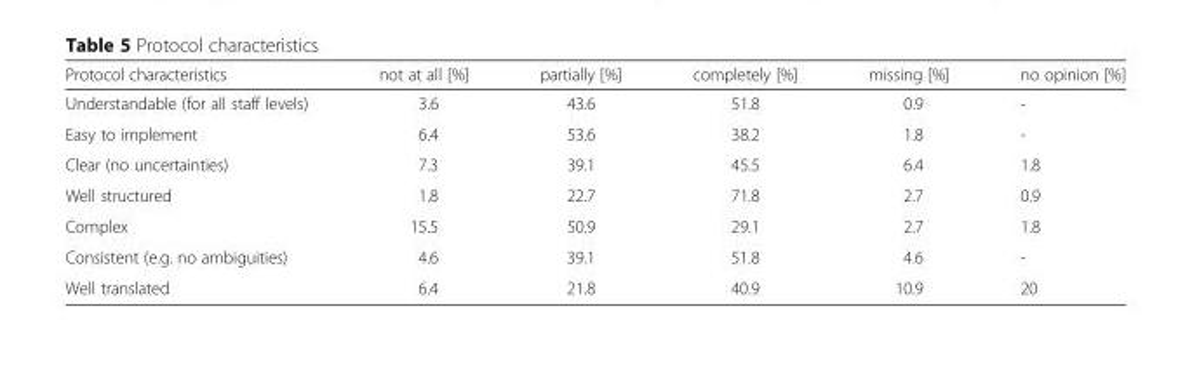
<table><thead><tr><td>Protocol characteristics</td><td>not at all [%]</td><td>partially [%]</td><td>completely [%]</td><td>missing [%]</td><td>no opinion [%]</td></tr></thead><tbody><tr><td>Understandable (for all staff levels)</td><td>3.6</td><td>43.6</td><td>51.8</td><td>0.9</td><td>-</td></tr><tr><td>Easy to implement</td><td>6.4</td><td>53.6</td><td>38.2</td><td>1.8</td><td>-</td></tr><tr><td>Clear (no uncertainties)</td><td>7.3</td><td>39.1</td><td>45.5</td><td>6.4</td><td>1.8</td></tr><tr><td>Well structured</td><td>1.8</td><td>22.7</td><td>71.8</td><td>2.7</td><td>0.9</td></tr><tr><td>Complex</td><td>15.5</td><td>50.9</td><td>29.1</td><td>2.7</td><td>1.8</td></tr><tr><td>Consistent (e.g. no ambiguities)</td><td>4.6</td><td>39.1</td><td>51.8</td><td>4.6</td><td>-</td></tr><tr><td>Well translated</td><td>6.4</td><td>21.8</td><td>40.9</td><td>10.9</td><td>20</td></tr></tbody></table>